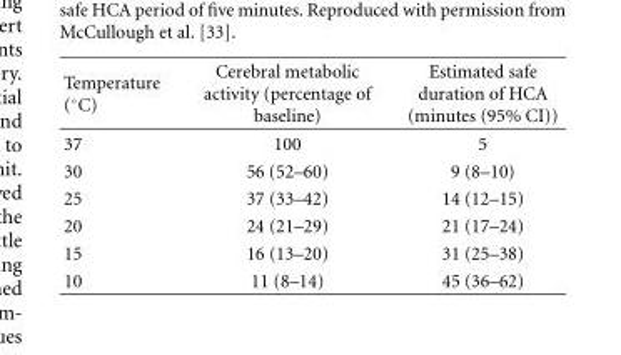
<table><thead><tr><td>Temperature (◦C)</td><td>Cerebral metabolic activity (percentage of baseline)</td><td>Estimated safe duration of HCA (minutes (95% CI))</td></tr></thead><tbody><tr><td>37</td><td>100</td><td>5</td></tr><tr><td>30</td><td>56 (52–60)</td><td>9 (8–10)</td></tr><tr><td>25</td><td>37 (33–42)</td><td>14 (12–15)</td></tr><tr><td>20</td><td>24 (21–29)</td><td>21 (17–24)</td></tr><tr><td>15</td><td>16 (13–20)</td><td>31 (25–38)</td></tr><tr><td>10</td><td>11 (8–14)</td><td>45 (36–62)</td></tr></tbody></table>